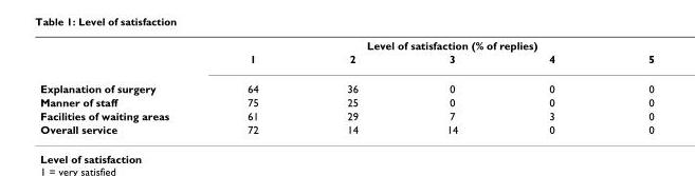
<table><thead><tr><td rowspan="2"></td><td colspan="5">Level of satisfaction (% of replies)</td></tr><tr><td>1</td><td>2</td><td>3</td><td>4</td><td>5</td></tr></thead><tbody><tr><td>Explanation of surgery</td><td>64</td><td>36</td><td>0</td><td>0</td><td>0</td></tr><tr><td>Manner of staff</td><td>75</td><td>25</td><td>0</td><td>0</td><td>0</td></tr><tr><td>Facilities of waiting areas</td><td>61</td><td>29</td><td>7</td><td>3</td><td>0</td></tr><tr><td>Overall service</td><td>72</td><td>14</td><td>14</td><td>0</td><td>0</td></tr></tbody></table>